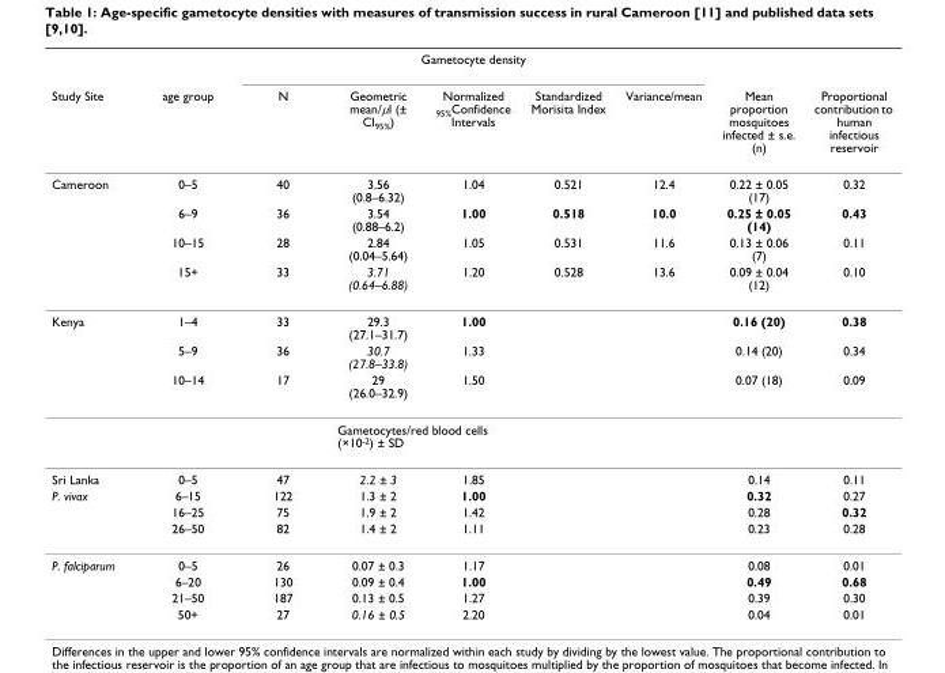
<table><thead><tr><td rowspan="2">Study Site</td><td rowspan="2">age group</td><td colspan="5">Gametocyte density</td><td rowspan="2">Mean proportion mosquitoes infected ± s.e. (n)</td><td rowspan="2">Proportional contribution to human infectious reservoir</td></tr><tr><td>N</td><td>Geometric mean/μl (± CI<sub>95%</sub>)</td><td>Normalized <sub>95%</sub>Confidence Intervals</td><td>Standardized Morisita Index</td><td>Variance/mean</td></tr></thead><tbody><tr><td rowspan="4">Cameroon</td><td>0–5</td><td>40</td><td>3.56 (0.8–6.32)</td><td>1.04</td><td>0.521</td><td>12.4</td><td>0.22 ± 0.05 (17)</td><td>0.32</td></tr><tr><td>6–9</td><td>36</td><td>3.54 (0.88–6.2)</td><td>1.00</td><td>0.518</td><td>10.0</td><td>0.25 ± 0.05 (14)</td><td>0.43</td></tr><tr><td>10–15</td><td>28</td><td>2.84 (0.04–5.64)</td><td>1.05</td><td>0.531</td><td>11.6</td><td>0.13 ± 0.06 (7)</td><td>0.11</td></tr><tr><td>15+</td><td>33</td><td>3.71 (0.64–6.88)</td><td>1.20</td><td>0.528</td><td>13.6</td><td>0.09 ± 0.04 (12)</td><td>0.10</td></tr><tr><td rowspan="4">Kenya</td><td>1–4</td><td>33</td><td>29.3 (27.1–31.7)</td><td>1.00</td><td></td><td></td><td>0.16 (20)</td><td>0.38</td></tr><tr><td>5–9</td><td>36</td><td>30.7 (27.8–33.8)</td><td>1.33</td><td></td><td></td><td>0.14 (20)</td><td>0.34</td></tr><tr><td>10–14</td><td>17</td><td>29 (26.0–32.9)</td><td>1.50</td><td></td><td></td><td>0.07 (18)</td><td>0.09</td></tr><tr><td></td><td></td><td colspan="3">Gametocytes/red blood cells (×10<sup>-2</sup>) ± SD</td><td></td><td></td><td></td></tr><tr><td>Sri Lanka</td><td>0–5</td><td>47</td><td>2.2 ± 3</td><td>1.85</td><td></td><td></td><td>0.14</td><td>0.11</td></tr><tr><td rowspan="3">P. vivax</td><td>6–15</td><td>122</td><td>1.3 ± 2</td><td>1.00</td><td></td><td></td><td>0.32</td><td>0.27</td></tr><tr><td>16–25</td><td>75</td><td>1.9 ± 2</td><td>1.42</td><td></td><td></td><td>0.28</td><td>0.32</td></tr><tr><td>26–50</td><td>82</td><td>1.4 ± 2</td><td>1.11</td><td></td><td></td><td>0.23</td><td>0.28</td></tr><tr><td rowspan="4">P. falciparum</td><td>0–5</td><td>26</td><td>0.07 ± 0.3</td><td>1.17</td><td></td><td></td><td>0.08</td><td>0.01</td></tr><tr><td>6–20</td><td>130</td><td>0.09 ± 0.4</td><td>1.00</td><td></td><td></td><td>0.49</td><td>0.68</td></tr><tr><td>21–50</td><td>187</td><td>0.13 ± 0.5</td><td>1.27</td><td></td><td></td><td>0.39</td><td>0.30</td></tr><tr><td>50+</td><td>27</td><td>0.16 ± 0.5</td><td>2.20</td><td></td><td></td><td>0.04</td><td>0.01</td></tr></tbody></table>